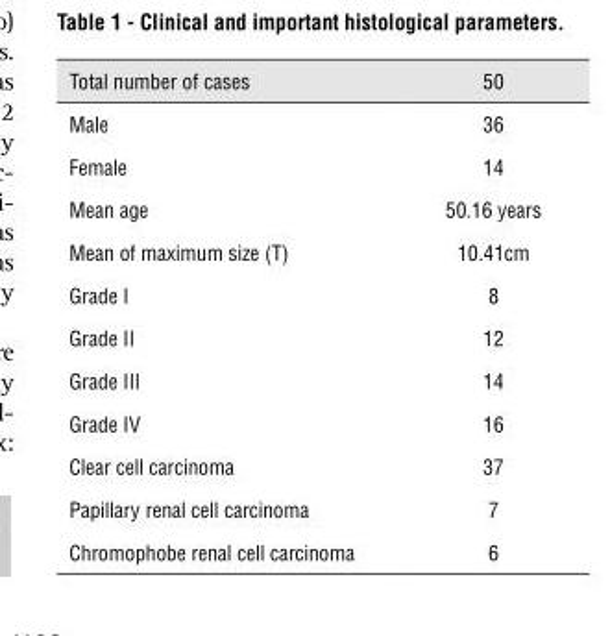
<table><thead><tr><td>Total number of cases</td><td>50</td></tr></thead><tbody><tr><td>Male</td><td>36</td></tr><tr><td>Female</td><td>14</td></tr><tr><td>Mean age</td><td>50.16 years</td></tr><tr><td>Mean of maximum size (T)</td><td>10.41cm</td></tr><tr><td>Grade I</td><td>8</td></tr><tr><td>Grade II</td><td>12</td></tr><tr><td>Grade III</td><td>14</td></tr><tr><td>Grade IV</td><td>16</td></tr><tr><td>Clear cell carcinoma</td><td>37</td></tr><tr><td>Papillary renal cell carcinoma</td><td>7</td></tr><tr><td>Chromophobe renal cell carcinoma</td><td>6</td></tr></tbody></table>